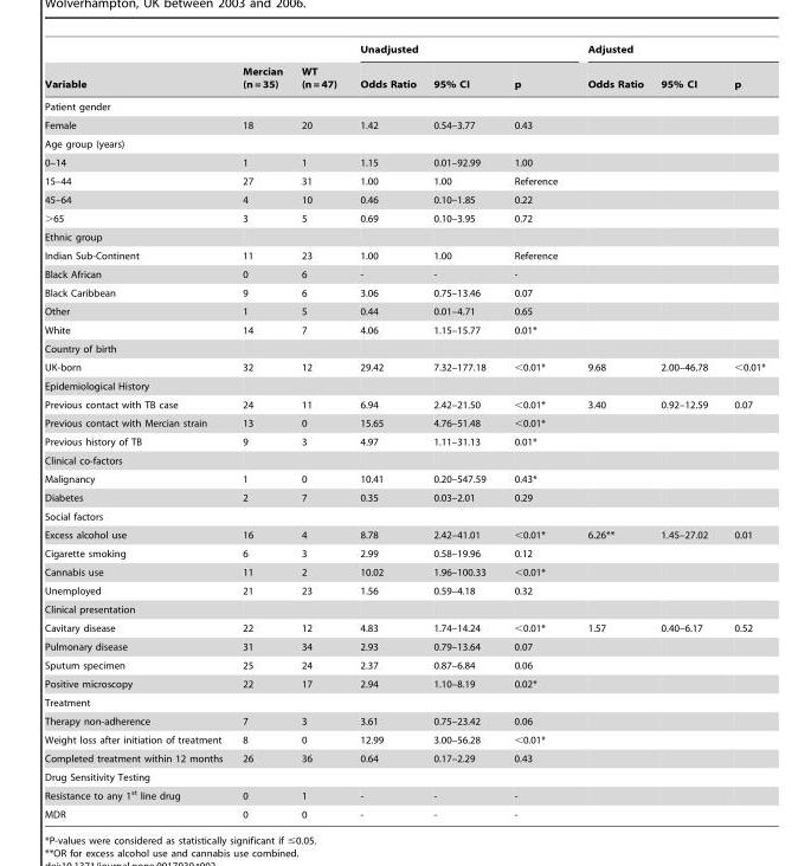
<table><thead><tr><td rowspan="2">Variable</td><td rowspan="2">Mercian (n = 35)</td><td rowspan="2">WT (n = 47)</td><td colspan="3">Unadjusted</td><td colspan="3">Adjusted</td></tr><tr><td>Odds Ratio</td><td>95% CI</td><td>p</td><td>Odds Ratio</td><td>95% CI</td><td>p</td></tr></thead><tbody><tr><td colspan="9">Patient gender</td></tr><tr><td>Female</td><td>18</td><td>20</td><td>1.42</td><td>0.54–3.77</td><td>0.43</td><td></td><td></td><td></td></tr><tr><td colspan="9">Age group (years)</td></tr><tr><td>0–14</td><td>1</td><td>1</td><td>1.15</td><td>0.01–92.99</td><td>1.00</td><td></td><td></td><td></td></tr><tr><td>15–44</td><td>27</td><td>31</td><td>1.00</td><td>1.00</td><td>Reference</td><td></td><td></td><td></td></tr><tr><td>45–64</td><td>4</td><td>10</td><td>0.46</td><td>0.10–1.85</td><td>0.22</td><td></td><td></td><td></td></tr><tr><td>&gt;65</td><td>3</td><td>5</td><td>0.69</td><td>0.10–3.95</td><td>0.72</td><td></td><td></td><td></td></tr><tr><td colspan="9">Ethnic group</td></tr><tr><td>Indian Sub-Continent</td><td>11</td><td>23</td><td>1.00</td><td>1.00</td><td>Reference</td><td></td><td></td><td></td></tr><tr><td>Black African</td><td>0</td><td>6</td><td>-</td><td>-</td><td>-</td><td></td><td></td><td></td></tr><tr><td>Black Caribbean</td><td>9</td><td>6</td><td>3.06</td><td>0.75–13.46</td><td>0.07</td><td></td><td></td><td></td></tr><tr><td>Other</td><td>1</td><td>5</td><td>0.44</td><td>0.01–4.71</td><td>0.65</td><td></td><td></td><td></td></tr><tr><td>White</td><td>14</td><td>7</td><td>4.06</td><td>1.15–15.77</td><td>0.01*</td><td></td><td></td><td></td></tr><tr><td colspan="9">Country of birth</td></tr><tr><td>UK-born</td><td>32</td><td>12</td><td>29.42</td><td>7.32–177.18</td><td>&lt;0.01*</td><td>9.68</td><td>2.00–46.78</td><td>&lt;0.01*</td></tr><tr><td colspan="9">Epidemiological History</td></tr><tr><td>Previous contact with TB case</td><td>24</td><td>11</td><td>6.94</td><td>2.42–21.50</td><td>&lt;0.01*</td><td>3.40</td><td>0.92–12.59</td><td>0.07</td></tr><tr><td>Previous contact with Mercian strain</td><td>13</td><td>0</td><td>15.65</td><td>4.76–51.48</td><td>&lt;0.01*</td><td></td><td></td><td></td></tr><tr><td>Previous history of TB</td><td>9</td><td>3</td><td>4.97</td><td>1.11–31.13</td><td>0.01*</td><td></td><td></td><td></td></tr><tr><td colspan="9">Clinical co-factors</td></tr><tr><td>Malignancy</td><td>1</td><td>0</td><td>10.41</td><td>0.20–547.59</td><td>0.43*</td><td></td><td></td><td></td></tr><tr><td>Diabetes</td><td>2</td><td>7</td><td>0.35</td><td>0.03–2.01</td><td>0.29</td><td></td><td></td><td></td></tr><tr><td colspan="9">Social factors</td></tr><tr><td>Excess alcohol use</td><td>16</td><td>4</td><td>8.78</td><td>2.42–41.01</td><td>&lt;0.01*</td><td>6.26**</td><td>1.45–27.02</td><td>0.01</td></tr><tr><td>Cigarette smoking</td><td>6</td><td>3</td><td>2.99</td><td>0.58–19.96</td><td>0.12</td><td></td><td></td><td></td></tr><tr><td>Cannabis use</td><td>11</td><td>2</td><td>10.02</td><td>1.96–100.33</td><td>&lt;0.01*</td><td></td><td></td><td></td></tr><tr><td>Unemployed</td><td>21</td><td>23</td><td>1.56</td><td>0.59–4.18</td><td>0.32</td><td></td><td></td><td></td></tr><tr><td colspan="9">Clinical presentation</td></tr><tr><td>Cavitary disease</td><td>22</td><td>12</td><td>4.83</td><td>1.74–14.24</td><td>&lt;0.01*</td><td>1.57</td><td>0.40–6.17</td><td>0.52</td></tr><tr><td>Pulmonary disease</td><td>31</td><td>34</td><td>2.93</td><td>0.79–13.64</td><td>0.07</td><td></td><td></td><td></td></tr><tr><td>Sputum specimen</td><td>25</td><td>24</td><td>2.37</td><td>0.87–6.84</td><td>0.06</td><td></td><td></td><td></td></tr><tr><td>Positive microscopy</td><td>22</td><td>17</td><td>2.94</td><td>1.10–8.19</td><td>0.02*</td><td></td><td></td><td></td></tr><tr><td colspan="9">Treatment</td></tr><tr><td>Therapy non-adherence</td><td>7</td><td>3</td><td>3.61</td><td>0.75–23.42</td><td>0.06</td><td></td><td></td><td></td></tr><tr><td>Weight loss after initiation of treatment</td><td>8</td><td>0</td><td>12.99</td><td>3.00–56.28</td><td>&lt;0.01*</td><td></td><td></td><td></td></tr><tr><td>Completed treatment within 12 months</td><td>26</td><td>36</td><td>0.64</td><td>0.17–2.29</td><td>0.43</td><td></td><td></td><td></td></tr><tr><td colspan="9">Drug Sensitivity Testing</td></tr><tr><td>Resistance to any 1<sup>st</sup> line drug</td><td>0</td><td>1</td><td>-</td><td>-</td><td>-</td><td></td><td></td><td></td></tr><tr><td>MDR</td><td>0</td><td>0</td><td>-</td><td>-</td><td>-</td><td></td><td></td><td></td></tr></tbody></table>